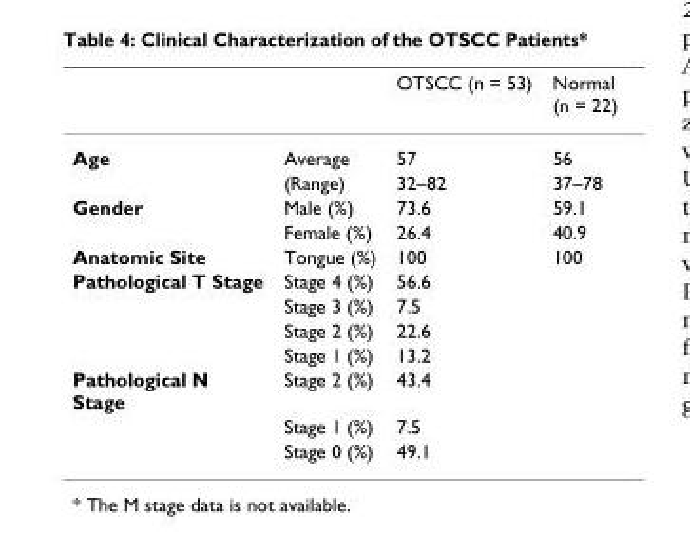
<table><thead><tr><td></td><td></td><td>OTSCC (n = 53)</td><td>Normal (n = 22)</td></tr></thead><tbody><tr><td rowspan="2">Age</td><td>Average</td><td>57</td><td>56</td></tr><tr><td>(Range)</td><td>32–82</td><td>37–78</td></tr><tr><td rowspan="2">Gender</td><td>Male (%)</td><td>73.6</td><td>59.1</td></tr><tr><td>Female (%)</td><td>26.4</td><td>40.9</td></tr><tr><td>Anatomic Site</td><td>Tongue (%)</td><td>100</td><td>100</td></tr><tr><td rowspan="4">Pathological T Stage</td><td>Stage 4 (%)</td><td>56.6</td><td></td></tr><tr><td>Stage 3 (%)</td><td>7.5</td><td></td></tr><tr><td>Stage 2 (%)</td><td>22.6</td><td></td></tr><tr><td>Stage 1 (%)</td><td>13.2</td><td></td></tr><tr><td rowspan="3">Pathological N Stage</td><td>Stage 2 (%)</td><td>43.4</td><td></td></tr><tr><td>Stage 1 (%)</td><td>7.5</td><td></td></tr><tr><td>Stage 0 (%)</td><td>49.1</td><td></td></tr></tbody></table>